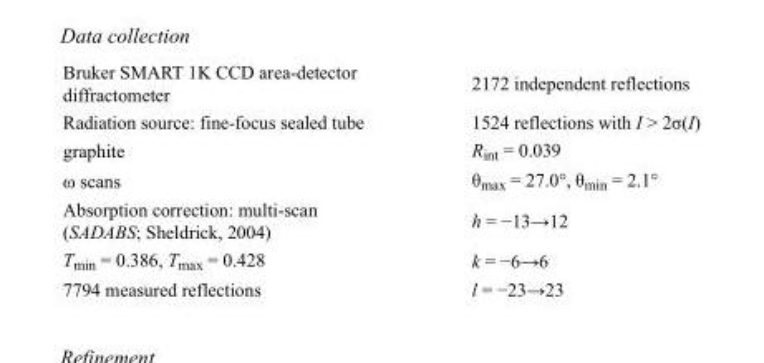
<table><tbody><tr><td>Bruker SMART 1K CCD area-detector diffractometer</td><td>2172 independent reflections</td></tr><tr><td>Radiation source: fine-focus sealed tube</td><td>1524 reflections with I &gt; 2σ(I)</td></tr><tr><td>graphite</td><td>R<sub>int</sub> = 0.039</td></tr><tr><td>ω scans</td><td>θ<sub>max</sub> = 27.0°, θ<sub>min</sub> = 2.1°</td></tr><tr><td>Absorption correction: multi-scan (SADABS; Sheldrick, 2004)</td><td>h = −13→12</td></tr><tr><td>T<sub>min</sub> = 0.386, T<sub>max</sub> = 0.428</td><td>k = −6→6</td></tr><tr><td>7794 measured reflections</td><td>l = −23→23</td></tr></tbody></table>